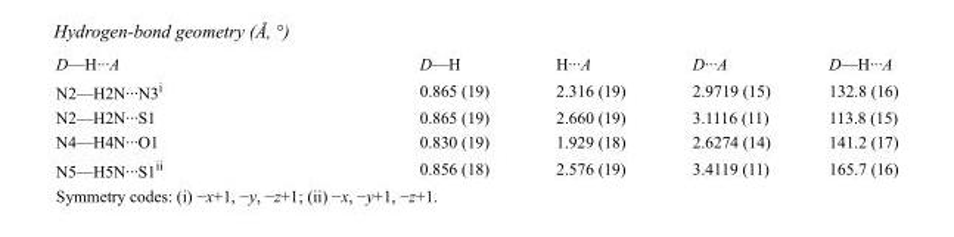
<table><tbody><tr><td>D—H···A</td><td>D—H</td><td>H···A</td><td>D···A</td><td>D—H···A</td></tr><tr><td>N2—H2N···N3<sup>i</sup></td><td>0.865 (19)</td><td>2.316 (19)</td><td>2.9719 (15)</td><td>132.8 (16)</td></tr><tr><td>N2—H2N···S1</td><td>0.865 (19)</td><td>2.660 (19)</td><td>3.1116 (11)</td><td>113.8 (15)</td></tr><tr><td>N4—H4N···O1</td><td>0.830 (19)</td><td>1.929 (18)</td><td>2.6274 (14)</td><td>141.2 (17)</td></tr><tr><td>N5—H5N···S1<sup>ii</sup></td><td>0.856 (18)</td><td>2.576 (19)</td><td>3.4119 (11)</td><td>165.7 (16)</td></tr></tbody></table>